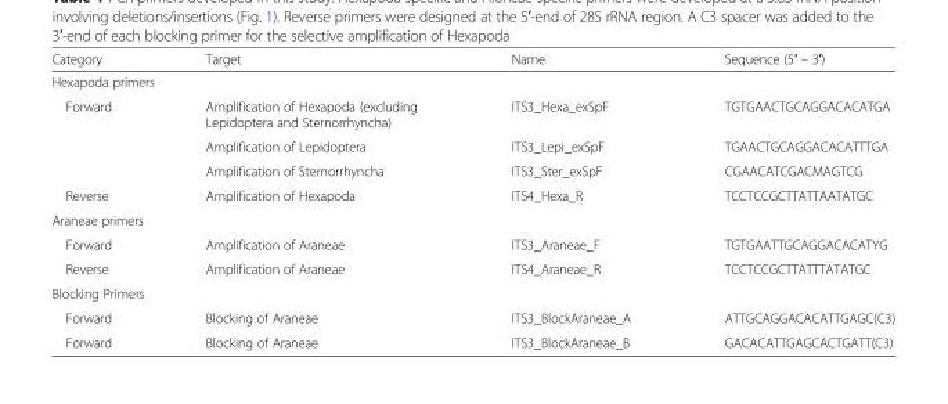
<table><thead><tr><td>Category</td><td>Target</td><td>Name</td><td>Sequence (5′ – 3′)</td></tr></thead><tbody><tr><td colspan="4">Hexapoda primers</td></tr><tr><td rowspan="3">Forward</td><td>Amplification of Hexapoda (excluding Lepidoptera and Sternorrhyncha)</td><td>ITS3_Hexa_exSpF</td><td>TGTGAACTGCAGGACACATGA</td></tr><tr><td>Amplification of Lepidoptera</td><td>ITS3_Lepi_exSpF</td><td>TGAACTGCAGGACACATTTGA</td></tr><tr><td>Amplification of Sternorrhyncha</td><td>ITS3_Ster_exSpF</td><td>CGAACATCGACMAGTCG</td></tr><tr><td>Reverse</td><td>Amplification of Hexapoda</td><td>ITS4_Hexa_R</td><td>TCCTCCGCTTATTAATATGC</td></tr><tr><td colspan="4">Araneae primers</td></tr><tr><td>Forward</td><td>Amplification of Araneae</td><td>ITS3_Araneae_F</td><td>TGTGAATTGCAGGACACATYG</td></tr><tr><td>Reverse</td><td>Amplification of Araneae</td><td>ITS4_Araneae_R</td><td>TCCTCCGCTTATTTATATGC</td></tr><tr><td colspan="4">Blocking Primers</td></tr><tr><td>Forward</td><td>Blocking of Araneae</td><td>ITS3_BlockAraneae_A</td><td>ATTGCAGGACACATTGAGC(C3)</td></tr><tr><td>Forward</td><td>Blocking of Araneae</td><td>ITS3_BlockAraneae_B</td><td>GACACATTGAGCACTGATT(C3)</td></tr></tbody></table>